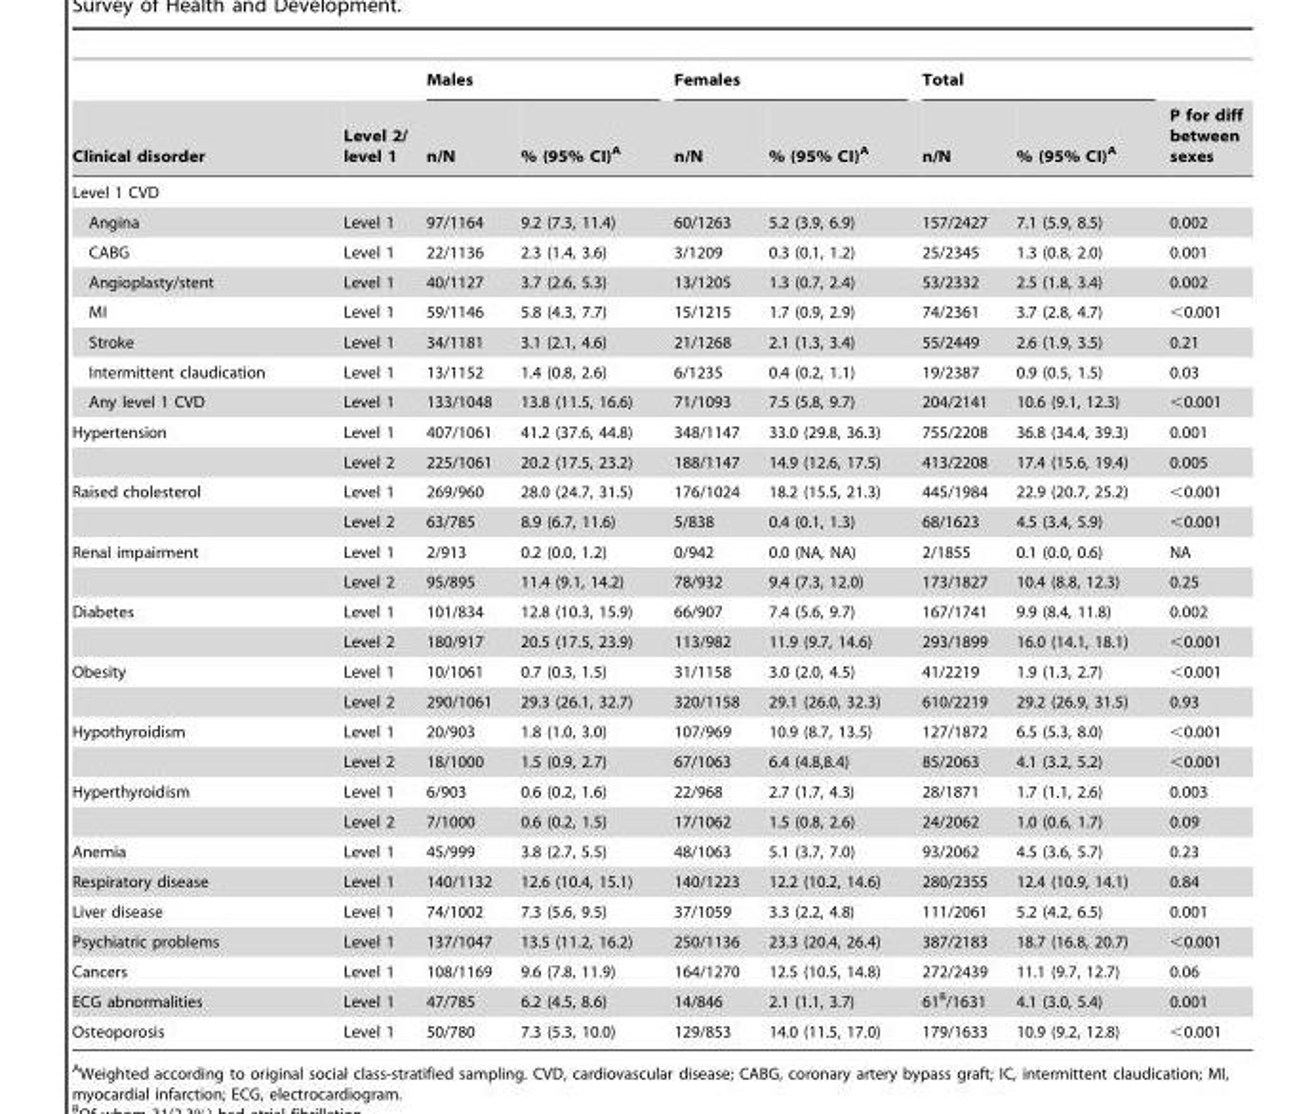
<table><thead><tr><td rowspan="2">Clinical disorder</td><td rowspan="2">Level 2/ level 1</td><td colspan="2">Males</td><td colspan="2">Females</td><td colspan="2">Total</td><td rowspan="2">P for diff between sexes</td></tr><tr><td>n/N</td><td>% (95% CI)<sup>A</sup></td><td>n/N</td><td>% (95% CI)<sup>A</sup></td><td>n/N</td><td>% (95% CI)<sup>A</sup></td></tr></thead><tbody><tr><td colspan="9">Level 1 CVD</td></tr><tr><td>Angina</td><td>Level 1</td><td>97/1164</td><td>9.2 (7.3, 11.4)</td><td>60/1263</td><td>5.2 (3.9, 6.9)</td><td>157/2427</td><td>7.1 (5.9, 8.5)</td><td>0.002</td></tr><tr><td>CABG</td><td>Level 1</td><td>22/1136</td><td>2.3 (1.4, 3.6)</td><td>3/1209</td><td>0.3 (0.1, 1.2)</td><td>25/2345</td><td>1.3 (0.8, 2.0)</td><td>0.001</td></tr><tr><td>Angioplasty/stent</td><td>Level 1</td><td>40/1127</td><td>3.7 (2.6, 5.3)</td><td>13/1205</td><td>1.3 (0.7, 2.4)</td><td>53/2332</td><td>2.5 (1.8, 3.4)</td><td>0.002</td></tr><tr><td>MI</td><td>Level 1</td><td>59/1146</td><td>5.8 (4.3, 7.7)</td><td>15/1215</td><td>1.7 (0.9, 2.9)</td><td>74/2361</td><td>3.7 (2.8, 4.7)</td><td>&lt;0.001</td></tr><tr><td>Stroke</td><td>Level 1</td><td>34/1181</td><td>3.1 (2.1, 4.6)</td><td>21/1268</td><td>2.1 (1.3, 3.4)</td><td>55/2449</td><td>2.6 (1.9, 3.5)</td><td>0.21</td></tr><tr><td>Intermittent claudication</td><td>Level 1</td><td>13/1152</td><td>1.4 (0.8, 2.6)</td><td>6/1235</td><td>0.4 (0.2, 1.1)</td><td>19/2387</td><td>0.9 (0.5, 1.5)</td><td>0.03</td></tr><tr><td>Any level 1 CVD</td><td>Level 1</td><td>133/1048</td><td>13.8 (11.5, 16.6)</td><td>71/1093</td><td>7.5 (5.8, 9.7)</td><td>204/2141</td><td>10.6 (9.1, 12.3)</td><td>&lt;0.001</td></tr><tr><td rowspan="2">Hypertension</td><td>Level 1</td><td>407/1061</td><td>41.2 (37.6, 44.8)</td><td>348/1147</td><td>33.0 (29.8, 36.3)</td><td>755/2208</td><td>36.8 (34.4, 39.3)</td><td>0.001</td></tr><tr><td>Level 2</td><td>225/1061</td><td>20.2 (17.5, 23.2)</td><td>188/1147</td><td>14.9 (12.6, 17.5)</td><td>413/2208</td><td>17.4 (15.6, 19.4)</td><td>0.005</td></tr><tr><td rowspan="2">Raised cholesterol</td><td>Level 1</td><td>269/960</td><td>28.0 (24.7, 31.5)</td><td>176/1024</td><td>18.2 (15.5, 21.3)</td><td>445/1984</td><td>22.9 (20.7, 25.2)</td><td>&lt;0.001</td></tr><tr><td>Level 2</td><td>63/785</td><td>8.9 (6.7, 11.6)</td><td>5/838</td><td>0.4 (0.1, 1.3)</td><td>68/1623</td><td>4.5 (3.4, 5.9)</td><td>&lt;0.001</td></tr><tr><td rowspan="2">Renal impairment</td><td>Level 1</td><td>2/913</td><td>0.2 (0.0, 1.2)</td><td>0/942</td><td>0.0 (NA, NA)</td><td>2/1855</td><td>0.1 (0.0, 0.6)</td><td>NA</td></tr><tr><td>Level 2</td><td>95/895</td><td>11.4 (9.1, 14.2)</td><td>78/932</td><td>9.4 (7.3, 12.0)</td><td>173/1827</td><td>10.4 (8.8, 12.3)</td><td>0.25</td></tr><tr><td rowspan="2">Diabetes</td><td>Level 1</td><td>101/834</td><td>12.8 (10.3, 15.9)</td><td>66/907</td><td>7.4 (5.6, 9.7)</td><td>167/1741</td><td>9.9 (8.4, 11.8)</td><td>0.002</td></tr><tr><td>Level 2</td><td>180/917</td><td>20.5 (17.5, 23.9)</td><td>113/982</td><td>11.9 (9.7, 14.6)</td><td>293/1899</td><td>16.0 (14.1, 18.1)</td><td>&lt;0.001</td></tr><tr><td rowspan="2">Obesity</td><td>Level 1</td><td>10/1061</td><td>0.7 (0.3, 1.5)</td><td>31/1158</td><td>3.0 (2.0, 4.5)</td><td>41/2219</td><td>1.9 (1.3, 2.7)</td><td>&lt;0.001</td></tr><tr><td>Level 2</td><td>290/1061</td><td>29.3 (26.1, 32.7)</td><td>320/1158</td><td>29.1 (26.0, 32.3)</td><td>610/2219</td><td>29.2 (26.9, 31.5)</td><td>0.93</td></tr><tr><td rowspan="2">Hypothyroidism</td><td>Level 1</td><td>20/903</td><td>1.8 (1.0, 3.0)</td><td>107/969</td><td>10.9 (8.7, 13.5)</td><td>127/1872</td><td>6.5 (5.3, 8.0)</td><td>&lt;0.001</td></tr><tr><td>Level 2</td><td>18/1000</td><td>1.5 (0.9, 2.7)</td><td>67/1063</td><td>6.4 (4.8,8.4)</td><td>85/2063</td><td>4.1 (3.2, 5.2)</td><td>&lt;0.001</td></tr><tr><td rowspan="2">Hyperthyroidism</td><td>Level 1</td><td>6/903</td><td>0.6 (0.2, 1.6)</td><td>22/968</td><td>2.7 (1.7, 4.3)</td><td>28/1871</td><td>1.7 (1.1, 2.6)</td><td>0.003</td></tr><tr><td>Level 2</td><td>7/1000</td><td>0.6 (0.2, 1.5)</td><td>17/1062</td><td>1.5 (0.8, 2.6)</td><td>24/2062</td><td>1.0 (0.6, 1.7)</td><td>0.09</td></tr><tr><td>Anemia</td><td>Level 1</td><td>45/999</td><td>3.8 (2.7, 5.5)</td><td>48/1063</td><td>5.1 (3.7, 7.0)</td><td>93/2062</td><td>4.5 (3.6, 5.7)</td><td>0.23</td></tr><tr><td>Respiratory disease</td><td>Level 1</td><td>140/1132</td><td>12.6 (10.4, 15.1)</td><td>140/1223</td><td>12.2 (10.2, 14.6)</td><td>280/2355</td><td>12.4 (10.9, 14.1)</td><td>0.84</td></tr><tr><td>Liver disease</td><td>Level 1</td><td>74/1002</td><td>7.3 (5.6, 9.5)</td><td>37/1059</td><td>3.3 (2.2, 4.8)</td><td>111/2061</td><td>5.2 (4.2, 6.5)</td><td>0.001</td></tr><tr><td>Psychiatric problems</td><td>Level 1</td><td>137/1047</td><td>13.5 (11.2, 16.2)</td><td>250/1136</td><td>23.3 (20.4, 26.4)</td><td>387/2183</td><td>18.7 (16.8, 20.7)</td><td>&lt;0.001</td></tr><tr><td>Cancers</td><td>Level 1</td><td>108/1169</td><td>9.6 (7.8, 11.9)</td><td>164/1270</td><td>12.5 (10.5, 14.8)</td><td>272/2439</td><td>11.1 (9.7, 12.7)</td><td>0.06</td></tr><tr><td>ECG abnormalities</td><td>Level 1</td><td>47/785</td><td>6.2 (4.5, 8.6)</td><td>14/846</td><td>2.1 (1.1, 3.7)</td><td>61<sup>B</sup>/1631</td><td>4.1 (3.0, 5.4)</td><td>0.001</td></tr><tr><td>Osteoporosis</td><td>Level 1</td><td>50/780</td><td>7.3 (5.3, 10.0)</td><td>129/853</td><td>14.0 (11.5, 17.0)</td><td>179/1633</td><td>10.9 (9.2, 12.8)</td><td>&lt;0.001</td></tr></tbody></table>